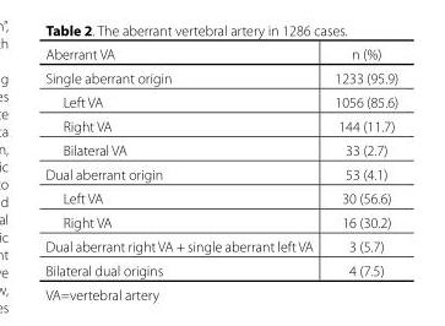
<table><thead><tr><td>Aberrant VA</td><td>n (%)</td></tr></thead><tbody><tr><td>Single aberrant origin</td><td>1233 (95.9)</td></tr><tr><td>Left VA</td><td>1056 (85.6)</td></tr><tr><td>Right VA</td><td>144 (11.7)</td></tr><tr><td>Bilateral VA</td><td>33 (2.7)</td></tr><tr><td>Dual aberrant origin</td><td>53 (4.1)</td></tr><tr><td>Left VA</td><td>30 (56.6)</td></tr><tr><td>Right VA</td><td>16 (30.2)</td></tr><tr><td>Dual aberrant right VA + single aberrant left VA</td><td>3 (5.7)</td></tr><tr><td>Bilateral dual origins</td><td>4 (7.5)</td></tr></tbody></table>